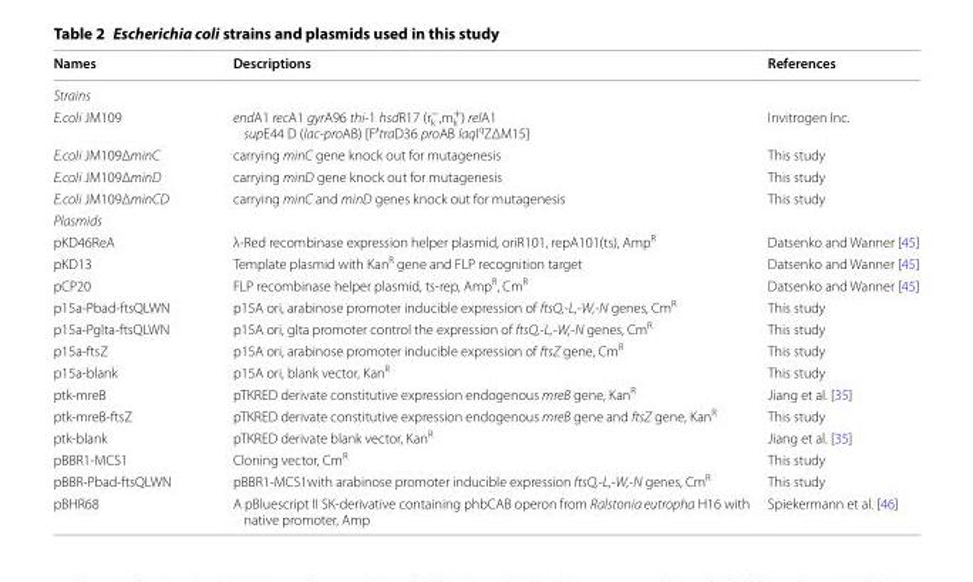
<table><thead><tr><td>Names</td><td>Descriptions</td><td>References</td></tr></thead><tbody><tr><td colspan="3">Strains</td></tr><tr><td>E.coli JM109</td><td>endA1 recA1 gyrA96 thi‑1 hsdR17 (r<sub>k</sub> <sup>−</sup>,m<sub>k</sub> <sup>+</sup>) relA1 supE44 D (lac‑proAB) [F′traD36 proAB laqI<sup>q</sup>ZΔM15]</td><td>Invitrogen Inc.</td></tr><tr><td>E.coli JM109ΔminC</td><td>carrying minC gene knock out for mutagenesis</td><td>This study</td></tr><tr><td>E.coli JM109ΔminD</td><td>carrying minD gene knock out for mutagenesis</td><td>This study</td></tr><tr><td>E.coli JM109ΔminCD</td><td>carrying minC and minD genes knock out for mutagenesis</td><td>This study</td></tr><tr><td colspan="3">Plasmids</td></tr><tr><td>pKD46ReA</td><td>λ‑Red recombinase expression helper plasmid, oriR101, repA101(ts), Amp<sup>R</sup></td><td>Datsenko and Wanner [45]</td></tr><tr><td>pKD13</td><td>Template plasmid with Kan<sup>R</sup> gene and FLP recognition target</td><td>Datsenko and Wanner [45]</td></tr><tr><td>pCP20</td><td>FLP recombinase helper plasmid, ts‑rep, Amp<sup>R</sup>, Cm<sup>R</sup></td><td>Datsenko and Wanner [45]</td></tr><tr><td>p15a‑Pbad‑ftsQLWN</td><td>p15A ori, arabinose promoter inducible expression of ftsQ,‑L,‑W,‑N genes, Cm<sup>R</sup></td><td>This study</td></tr><tr><td>p15a‑Pglta‑ftsQLWN</td><td>p15A ori, glta promoter control the expression of ftsQ,‑L,‑W,‑N genes, Cm<sup>R</sup></td><td>This study</td></tr><tr><td>p15a‑ftsZ</td><td>p15A ori, arabinose promoter inducible expression of ftsZ gene, Cm<sup>R</sup></td><td>This study</td></tr><tr><td>p15a‑blank</td><td>p15A ori, blank vector, Kan<sup>R</sup></td><td>This study</td></tr><tr><td>ptk‑mreB</td><td>pTKRED derivate constitutive expression endogenous mreB gene, Kan<sup>R</sup></td><td>Jiang et al. [35]</td></tr><tr><td>ptk‑mreB‑ftsZ</td><td>pTKRED derivate constitutive expression endogenous mreB gene and ftsZ gene, Kan<sup>R</sup></td><td>This study</td></tr><tr><td>ptk‑blank</td><td>pTKRED derivate blank vector, Kan<sup>R</sup></td><td>Jiang et al. [35]</td></tr><tr><td>pBBR1‑MCS1</td><td>Cloning vector, Cm<sup>R</sup></td><td>This study</td></tr><tr><td>pBBR‑Pbad‑ftsQLWN</td><td>pBBR1‑MCS1with arabinose promoter inducible expression ftsQ,‑L,‑W,‑N genes, Cm<sup>R</sup></td><td>This study</td></tr><tr><td>pBHR68</td><td>A pBluescript II SK‑derivative containing phbCAB operon from Ralstonia eutropha H16 with native promoter, Amp</td><td>Spiekermann et al. [46]</td></tr></tbody></table>